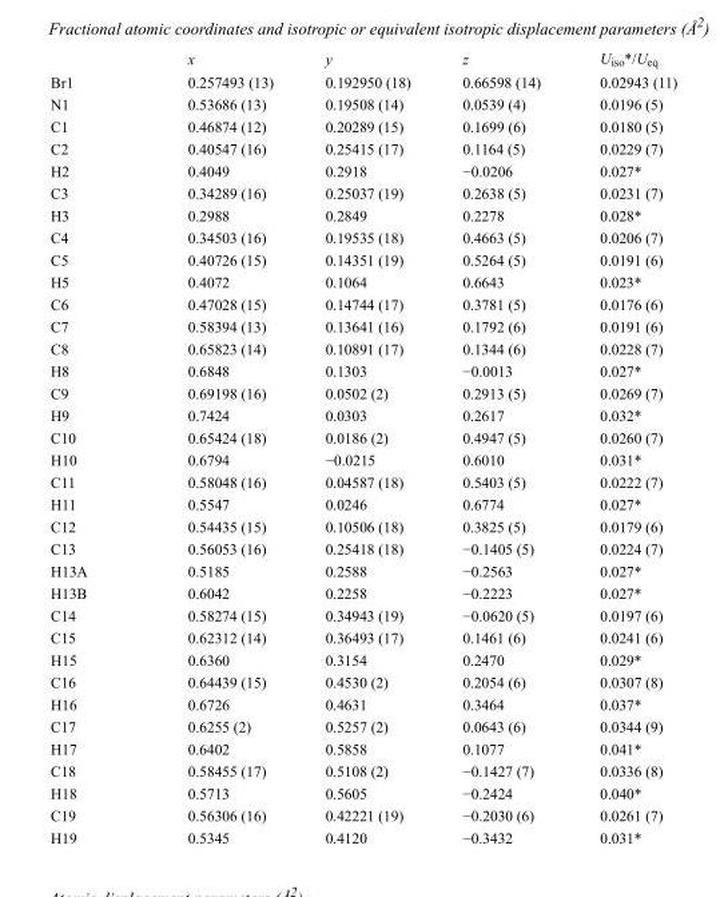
<table><thead><tr><td></td><td>x</td><td>y</td><td>z</td><td>U<sub>iso</sub>*/U<sub>eq</sub></td></tr></thead><tbody><tr><td>Br1</td><td>0.257493 (13)</td><td>0.192950 (18)</td><td>0.66598 (14)</td><td>0.02943 (11)</td></tr><tr><td>N1</td><td>0.53686 (13)</td><td>0.19508 (14)</td><td>0.0539 (4)</td><td>0.0196 (5)</td></tr><tr><td>C1</td><td>0.46874 (12)</td><td>0.20289 (15)</td><td>0.1699 (6)</td><td>0.0180 (5)</td></tr><tr><td>C2</td><td>0.40547 (16)</td><td>0.25415 (17)</td><td>0.1164 (5)</td><td>0.0229 (7)</td></tr><tr><td>H2</td><td>0.4049</td><td>0.2918</td><td>−0.0206</td><td>0.027*</td></tr><tr><td>C3</td><td>0.34289 (16)</td><td>0.25037 (19)</td><td>0.2638 (5)</td><td>0.0231 (7)</td></tr><tr><td>H3</td><td>0.2988</td><td>0.2849</td><td>0.2278</td><td>0.028*</td></tr><tr><td>C4</td><td>0.34503 (16)</td><td>0.19535 (18)</td><td>0.4663 (5)</td><td>0.0206 (7)</td></tr><tr><td>C5</td><td>0.40726 (15)</td><td>0.14351 (19)</td><td>0.5264 (5)</td><td>0.0191 (6)</td></tr><tr><td>H5</td><td>0.4072</td><td>0.1064</td><td>0.6643</td><td>0.023*</td></tr><tr><td>C6</td><td>0.47028 (15)</td><td>0.14744 (17)</td><td>0.3781 (5)</td><td>0.0176 (6)</td></tr><tr><td>C7</td><td>0.58394 (13)</td><td>0.13641 (16)</td><td>0.1792 (6)</td><td>0.0191 (6)</td></tr><tr><td>C8</td><td>0.65823 (14)</td><td>0.10891 (17)</td><td>0.1344 (6)</td><td>0.0228 (7)</td></tr><tr><td>H8</td><td>0.6848</td><td>0.1303</td><td>−0.0013</td><td>0.027*</td></tr><tr><td>C9</td><td>0.69198 (16)</td><td>0.0502 (2)</td><td>0.2913 (5)</td><td>0.0269 (7)</td></tr><tr><td>H9</td><td>0.7424</td><td>0.0303</td><td>0.2617</td><td>0.032*</td></tr><tr><td>C10</td><td>0.65424 (18)</td><td>0.0186 (2)</td><td>0.4947 (5)</td><td>0.0260 (7)</td></tr><tr><td>H10</td><td>0.6794</td><td>−0.0215</td><td>0.6010</td><td>0.031*</td></tr><tr><td>C11</td><td>0.58048 (16)</td><td>0.04587 (18)</td><td>0.5403 (5)</td><td>0.0222 (7)</td></tr><tr><td>H11</td><td>0.5547</td><td>0.0246</td><td>0.6774</td><td>0.027*</td></tr><tr><td>C12</td><td>0.54435 (15)</td><td>0.10506 (18)</td><td>0.3825 (5)</td><td>0.0179 (6)</td></tr><tr><td>C13</td><td>0.56053 (16)</td><td>0.25418 (18)</td><td>−0.1405 (5)</td><td>0.0224 (7)</td></tr><tr><td>H13A</td><td>0.5185</td><td>0.2588</td><td>−0.2563</td><td>0.027*</td></tr><tr><td>H13B</td><td>0.6042</td><td>0.2258</td><td>−0.2223</td><td>0.027*</td></tr><tr><td>C14</td><td>0.58274 (15)</td><td>0.34943 (19)</td><td>−0.0620 (5)</td><td>0.0197 (6)</td></tr><tr><td>C15</td><td>0.62312 (14)</td><td>0.36493 (17)</td><td>0.1461 (6)</td><td>0.0241 (6)</td></tr><tr><td>H15</td><td>0.6360</td><td>0.3154</td><td>0.2470</td><td>0.029*</td></tr><tr><td>C16</td><td>0.64439 (15)</td><td>0.4530 (2)</td><td>0.2054 (6)</td><td>0.0307 (8)</td></tr><tr><td>H16</td><td>0.6726</td><td>0.4631</td><td>0.3464</td><td>0.037*</td></tr><tr><td>C17</td><td>0.6255 (2)</td><td>0.5257 (2)</td><td>0.0643 (6)</td><td>0.0344 (9)</td></tr><tr><td>H17</td><td>0.6402</td><td>0.5858</td><td>0.1077</td><td>0.041*</td></tr><tr><td>C18</td><td>0.58455 (17)</td><td>0.5108 (2)</td><td>−0.1427 (7)</td><td>0.0336 (8)</td></tr><tr><td>H18</td><td>0.5713</td><td>0.5605</td><td>−0.2424</td><td>0.040*</td></tr><tr><td>C19</td><td>0.56306 (16)</td><td>0.42221 (19)</td><td>−0.2030 (6)</td><td>0.0261 (7)</td></tr><tr><td>H19</td><td>0.5345</td><td>0.4120</td><td>−0.3432</td><td>0.031*</td></tr></tbody></table>